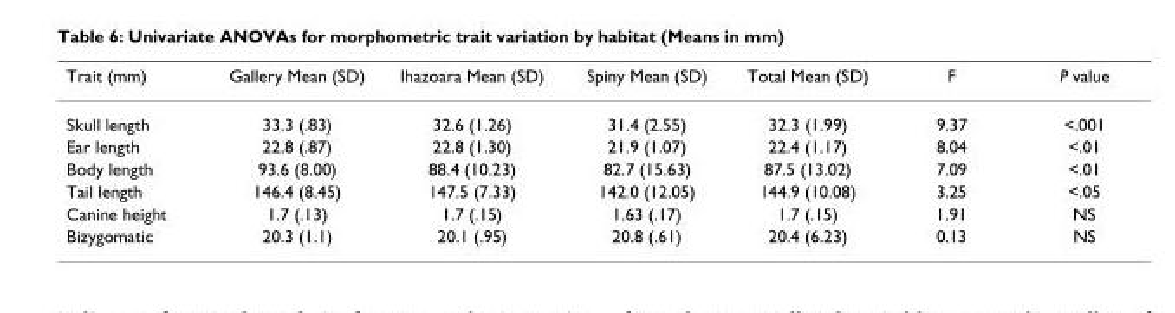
<table><thead><tr><td>Trait (mm)</td><td>Gallery Mean (SD)</td><td>Ihazoara Mean (SD)</td><td>Spiny Mean (SD)</td><td>Total Mean (SD)</td><td>F</td><td>P value</td></tr></thead><tbody><tr><td>Skull length</td><td>33.3 (.83)</td><td>32.6 (1.26)</td><td>31.4 (2.55)</td><td>32.3 (1.99)</td><td>9.37</td><td>&lt;.001</td></tr><tr><td>Ear length</td><td>22.8 (.87)</td><td>22.8 (1.30)</td><td>21.9 (1.07)</td><td>22.4 (1.17)</td><td>8.04</td><td>&lt;.01</td></tr><tr><td>Body length</td><td>93.6 (8.00)</td><td>88.4 (10.23)</td><td>82.7 (15.63)</td><td>87.5 (13.02)</td><td>7.09</td><td>&lt;.01</td></tr><tr><td>Tail length</td><td>146.4 (8.45)</td><td>147.5 (7.33)</td><td>142.0 (12.05)</td><td>144.9 (10.08)</td><td>3.25</td><td>&lt;.05</td></tr><tr><td>Canine height</td><td>1.7 (.13)</td><td>1.7 (.15)</td><td>1.63 (.17)</td><td>1.7 (.15)</td><td>1.91</td><td>NS</td></tr><tr><td>Bizygomatic</td><td>20.3 (1.1)</td><td>20.1 (.95)</td><td>20.8 (.61)</td><td>20.4 (6.23)</td><td>0.13</td><td>NS</td></tr></tbody></table>